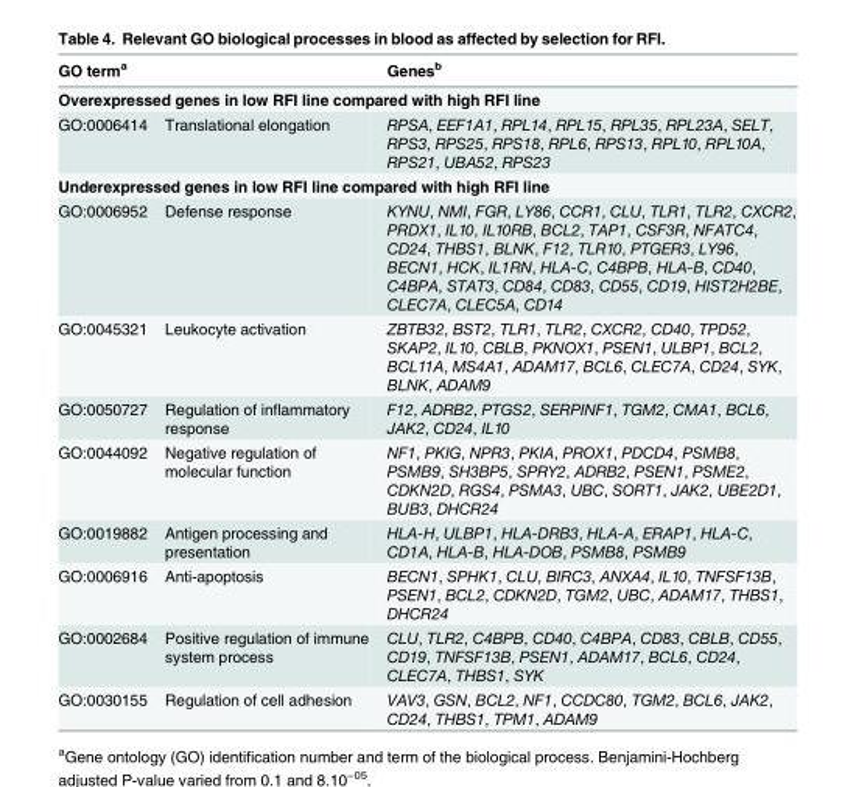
<table><thead><tr><td>GO term<sup>a</sup></td><td></td><td>Genes<sup>b</sup></td></tr></thead><tbody><tr><td colspan="3">Overexpressed genes in low RFI line compared with high RFI line</td></tr><tr><td>GO:0006414</td><td>Translational elongation</td><td>RPSA, EEF1A1, RPL14, RPL15, RPL35, RPL23A, SELT, RPS3, RPS25, RPS18, RPL6, RPS13, RPL10, RPL10A, RPS21, UBA52, RPS23</td></tr><tr><td colspan="3">Underexpressed genes in low RFI line compared with high RFI line</td></tr><tr><td>GO:0006952</td><td>Defense response</td><td>KYNU, NMI, FGR, LY86, CCR1, CLU, TLR1, TLR2, CXCR2, PRDX1, IL10, IL10RB, BCL2, TAP1, CSF3R, NFATC4, CD24, THBS1, BLNK, F12, TLR10, PTGER3, LY96, BECN1, HCK, IL1RN, HLA-C, C4BPB, HLA-B, CD40, C4BPA, STAT3, CD84, CD83, CD55, CD19, HIST2H2BE, CLEC7A, CLEC5A, CD14</td></tr><tr><td>GO:0045321</td><td>Leukocyte activation</td><td>ZBTB32, BST2, TLR1, TLR2, CXCR2, CD40, TPD52, SKAP2, IL10, CBLB, PKNOX1, PSEN1, ULBP1, BCL2, BCL11A, MS4A1, ADAM17, BCL6, CLEC7A, CD24, SYK, BLNK, ADAM9</td></tr><tr><td>GO:0050727</td><td>Regulation of inflammatory response</td><td>F12, ADRB2, PTGS2, SERPINF1, TGM2, CMA1, BCL6, JAK2, CD24, IL10</td></tr><tr><td>GO:0044092</td><td>Negative regulation of molecular function</td><td>NF1, PKIG, NPR3, PKIA, PROX1, PDCD4, PSMB8, PSMB9, SH3BP5, SPRY2, ADRB2, PSEN1, PSME2, CDKN2D, RGS4, PSMA3, UBC, SORT1, JAK2, UBE2D1, BUB3, DHCR24</td></tr><tr><td>GO:0019882</td><td>Antigen processing and presentation</td><td>HLA-H, ULBP1, HLA-DRB3, HLA-A, ERAP1, HLA-C, CD1A, HLA-B, HLA-DOB, PSMB8, PSMB9</td></tr><tr><td>GO:0006916</td><td>Anti-apoptosis</td><td>BECN1, SPHK1, CLU, BIRC3, ANXA4, IL10, TNFSF13B, PSEN1, BCL2, CDKN2D, TGM2, UBC, ADAM17, THBS1, DHCR24</td></tr><tr><td>GO:0002684</td><td>Positive regulation of immune system process</td><td>CLU, TLR2, C4BPB, CD40, C4BPA, CD83, CBLB, CD55, CD19, TNFSF13B, PSEN1, ADAM17, BCL6, CD24, CLEC7A, THBS1, SYK</td></tr><tr><td>GO:0030155</td><td>Regulation of cell adhesion</td><td>VAV3, GSN, BCL2, NF1, CCDC80, TGM2, BCL6, JAK2, CD24, THBS1, TPM1, ADAM9</td></tr></tbody></table>